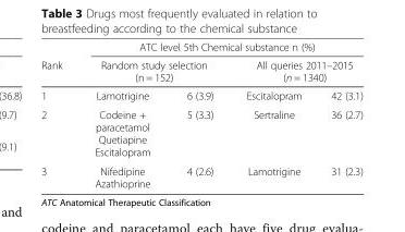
<table><thead><tr><td rowspan="3">Rank 1</td><td colspan="4">ATC level 5th Chemical substance n (%)</td></tr><tr><td colspan="2">Random study selection (n = 152)</td><td colspan="2">All queries 2011–2015 (n = 1340)</td></tr><tr><td>Lamotrigine</td><td>6 (3.9)</td><td>Escitalopram</td><td>42 (3.1)</td></tr></thead><tbody><tr><td>2</td><td>Codeine + paracetamol Quetiapine Escitalopram</td><td>5 (3.3)</td><td>Sertraline</td><td>36 (2.7)</td></tr><tr><td>3</td><td>Nifedipine Azathioprine</td><td>4 (2.6)</td><td>Lamotrigine</td><td>31 (2.3)</td></tr></tbody></table>